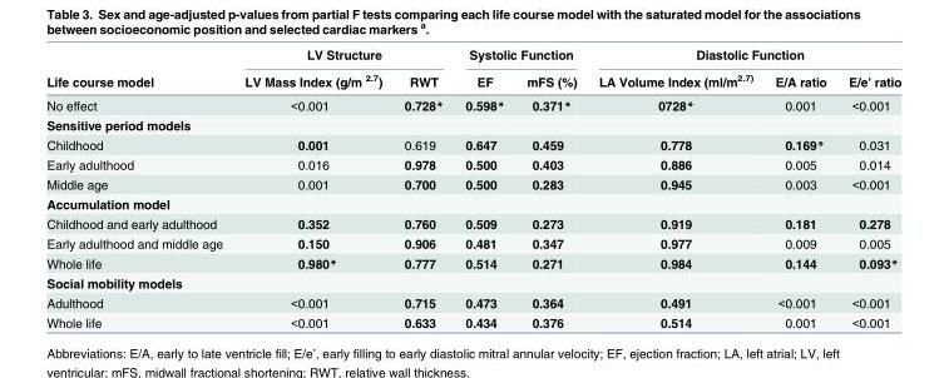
<table><thead><tr><td rowspan="2">Life course model</td><td colspan="2">LV Structure</td><td colspan="2">Systolic Function</td><td colspan="3">Diastolic Function</td></tr><tr><td>LV Mass Index (g/m <sup>2.7</sup>)</td><td>RWT</td><td>EF</td><td>mFS (%)</td><td>LA Volume Index (ml/m<sup>2.7)</sup></td><td>E/A ratio</td><td>E/e’ ratio</td></tr></thead><tbody><tr><td>No effect</td><td>&lt;0.001</td><td>0.728*</td><td>0.598*</td><td>0.371*</td><td>0728*</td><td>0.001</td><td>&lt;0.001</td></tr><tr><td colspan="8">Sensitive period models</td></tr><tr><td>Childhood</td><td>0.001</td><td>0.619</td><td>0.647</td><td>0.459</td><td>0.778</td><td>0.169*</td><td>0.031</td></tr><tr><td>Early adulthood</td><td>0.016</td><td>0.978</td><td>0.500</td><td>0.403</td><td>0.886</td><td>0.005</td><td>0.014</td></tr><tr><td>Middle age</td><td>0.001</td><td>0.700</td><td>0.500</td><td>0.283</td><td>0.945</td><td>0.003</td><td>&lt;0.001</td></tr><tr><td colspan="8">Accumulation model</td></tr><tr><td>Childhood and early adulthood</td><td>0.352</td><td>0.760</td><td>0.509</td><td>0.273</td><td>0.919</td><td>0.181</td><td>0.278</td></tr><tr><td>Early adulthood and middle age</td><td>0.150</td><td>0.906</td><td>0.481</td><td>0.347</td><td>0.977</td><td>0.009</td><td>0.005</td></tr><tr><td>Whole life</td><td>0.980*</td><td>0.777</td><td>0.514</td><td>0.271</td><td>0.984</td><td>0.144</td><td>0.093*</td></tr><tr><td colspan="8">Social mobility models</td></tr><tr><td>Adulthood</td><td>&lt;0.001</td><td>0.715</td><td>0.473</td><td>0.364</td><td>0.491</td><td>&lt;0.001</td><td>&lt;0.001</td></tr><tr><td>Whole life</td><td>&lt;0.001</td><td>0.633</td><td>0.434</td><td>0.376</td><td>0.514</td><td>0.001</td><td>&lt;0.001</td></tr></tbody></table>